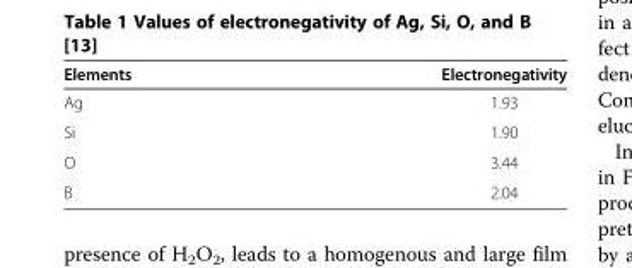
<table><thead><tr><td>Elements</td><td>Electronegativity</td></tr></thead><tbody><tr><td>Ag</td><td>1.93</td></tr><tr><td>Si</td><td>1.90</td></tr><tr><td>O</td><td>3.44</td></tr><tr><td>B</td><td>2.04</td></tr></tbody></table>